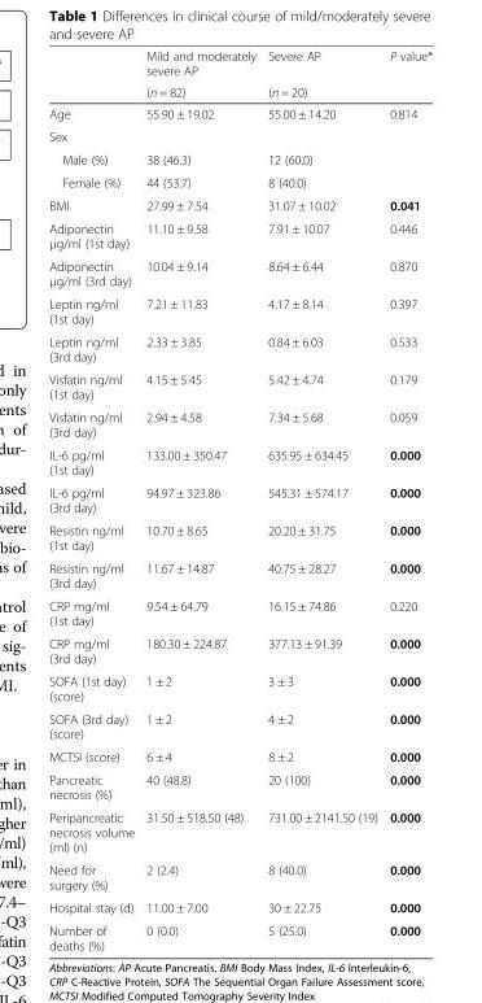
<table><thead><tr><td rowspan="2"></td><td rowspan="2">Mild and moderately severe AP (n = 82)</td><td rowspan="2">Severe AP (n = 20)</td><td rowspan="2">P value*</td></tr><tr></tr></thead><tbody><tr><td>Age</td><td>55.90 ± 19.02</td><td>55.00 ± 14.20</td><td>0.814</td></tr><tr><td colspan="4">Sex</td></tr><tr><td>Male (%)</td><td>38 (46.3)</td><td>12 (60.0)</td><td></td></tr><tr><td>Female (%)</td><td>44 (53.7)</td><td>8 (40.0)</td><td></td></tr><tr><td>BMI</td><td>27.99 ± 7.54</td><td>31.07 ± 10.02</td><td>0.041</td></tr><tr><td>Adiponectin μg/ml (1st day)</td><td>11.10 ± 9.58</td><td>7.91 ± 10.07</td><td>0.446</td></tr><tr><td>Adiponectin μg/ml (3rd day)</td><td>10.04 ± 9.14</td><td>8.64 ± 6.44</td><td>0.870</td></tr><tr><td>Leptin ng/ml (1st day)</td><td>7.21 ± 11.83</td><td>4.17 ± 8.14</td><td>0.397</td></tr><tr><td>Leptin ng/ml (3rd day)</td><td>2.33 ± 3.85</td><td>0.84 ± 6.03</td><td>0.533</td></tr><tr><td>Visfatin ng/ml (1st day)</td><td>4.15 ± 5.45</td><td>5.42 ± 4.74</td><td>0.179</td></tr><tr><td>Visfatin ng/ml (3rd day)</td><td>2.94 ± 4.58</td><td>7.34 ± 5.68</td><td>0.059</td></tr><tr><td>IL-6 pg/ml (1st day)</td><td>133.00 ± 350.47</td><td>635.95 ± 634.45</td><td>0.000</td></tr><tr><td>IL-6 pg/ml (3rd day)</td><td>94.97 ± 323.86</td><td>545.31 ± 574.17</td><td>0.000</td></tr><tr><td>Resistin ng/ml (1st day)</td><td>10.70 ± 8.65</td><td>20.20 ± 31.75</td><td>0.000</td></tr><tr><td>Resistin ng/ml (3rd day)</td><td>11.67 ± 14.87</td><td>40.75 ± 28.27</td><td>0.000</td></tr><tr><td>CRP mg/ml (1st day)</td><td>9.54 ± 64.79</td><td>16.15 ± 74.86</td><td>0.220</td></tr><tr><td>CRP mg/ml (3rd day)</td><td>180.30 ± 224.87</td><td>377.13 ± 91.39</td><td>0.000</td></tr><tr><td>SOFA (1st day) (score)</td><td>1 ± 2</td><td>3 ± 3</td><td>0.000</td></tr><tr><td>SOFA (3rd day) (score)</td><td>1 ± 2</td><td>4 ± 2</td><td>0.000</td></tr><tr><td>MCTSI (score)</td><td>6 ± 4</td><td>8 ± 2</td><td>0.000</td></tr><tr><td>Pancreatic necrosis (%)</td><td>40 (48.8)</td><td>20 (100)</td><td>0.000</td></tr><tr><td>Peripancreatic necrosis volume (ml) (n)</td><td>31.50 ± 518.50 (48)</td><td>731.00 ± 2141.50 (19)</td><td>0.000</td></tr><tr><td>Need for surgery (%)</td><td>2 (2.4)</td><td>8 (40.0)</td><td>0.000</td></tr><tr><td>Hospital stay (d)</td><td>11.00 ± 7.00</td><td>30 ± 22.75</td><td>0.000</td></tr><tr><td>Number of deaths (%)</td><td>0 (0.0)</td><td>5 (25.0)</td><td>0.000</td></tr></tbody></table>